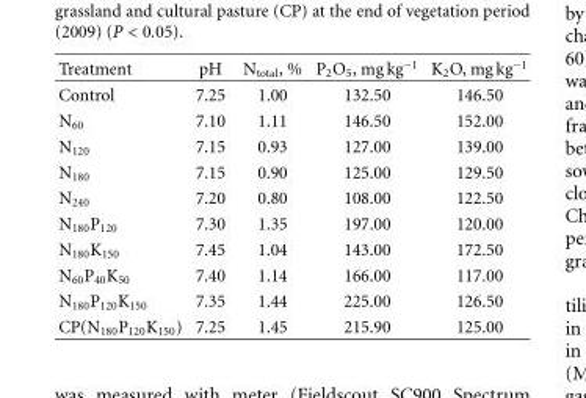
<table><thead><tr><td>Treatment</td><td>pH</td><td>N<sub>total</sub>, %</td><td>P<sub>2</sub>O<sub>5</sub>, mg kg<sup>−1</sup></td><td>K<sub>2</sub>O, mg kg<sup>−1</sup></td></tr></thead><tbody><tr><td>Control</td><td>7.25</td><td>1.00</td><td>132.50</td><td>146.50</td></tr><tr><td>N<sub>60</sub></td><td>7.10</td><td>1.11</td><td>146.50</td><td>152.00</td></tr><tr><td>N<sub>120</sub></td><td>7.15</td><td>0.93</td><td>127.00</td><td>139.00</td></tr><tr><td>N<sub>180</sub></td><td>7.15</td><td>0.90</td><td>125.00</td><td>129.50</td></tr><tr><td>N<sub>240</sub></td><td>7.20</td><td>0.80</td><td>108.00</td><td>122.50</td></tr><tr><td>N<sub>180</sub>P<sub>120</sub></td><td>7.30</td><td>1.35</td><td>197.00</td><td>120.00</td></tr><tr><td>N<sub>180</sub>K<sub>150</sub></td><td>7.45</td><td>1.04</td><td>143.00</td><td>172.50</td></tr><tr><td>N<sub>60</sub>P<sub>40</sub>K<sub>50</sub></td><td>7.40</td><td>1.14</td><td>166.00</td><td>117.00</td></tr><tr><td>N<sub>180</sub>P<sub>120</sub>K<sub>150</sub></td><td>7.35</td><td>1.44</td><td>225.00</td><td>126.50</td></tr><tr><td>CP(N<sub>180</sub>P<sub>120</sub>K<sub>150</sub>)</td><td>7.25</td><td>1.45</td><td>215.90</td><td>125.00</td></tr></tbody></table>